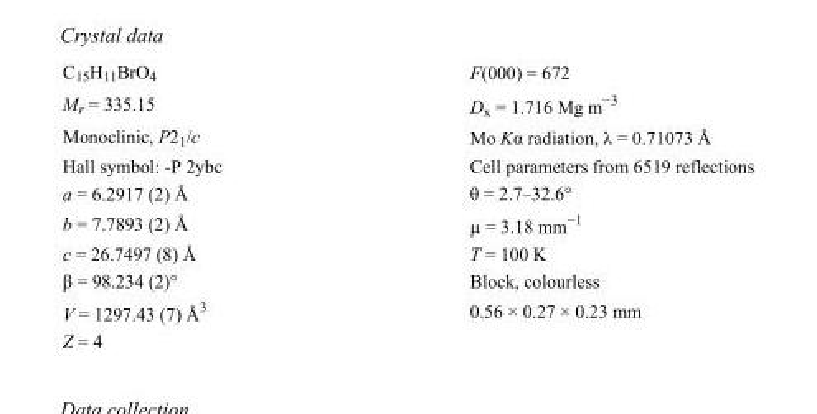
<table><tbody><tr><td>C<sub>15</sub>H<sub>11</sub>BrO<sub>4</sub></td><td>F(000) = 672</td></tr><tr><td>M<sub>r</sub> = 335.15</td><td>D<sub>x</sub> = 1.716 Mg m<sup>−3</sup></td></tr><tr><td>Monoclinic, P2<sub>1</sub>/c</td><td>Mo Kα radiation, λ = 0.71073 Å</td></tr><tr><td>Hall symbol: -P 2ybc</td><td>Cell parameters from 6519 reflections</td></tr><tr><td>a = 6.2917 (2) Å</td><td>θ = 2.7–32.6°</td></tr><tr><td>b = 7.7893 (2) Å</td><td>µ = 3.18 mm<sup>−1</sup></td></tr><tr><td>c = 26.7497 (8) Å</td><td>T = 100 K</td></tr><tr><td>β = 98.234 (2)°</td><td>Block, colourless</td></tr><tr><td>V = 1297.43 (7) Å<sup>3</sup></td><td>0.56 × 0.27 × 0.23 mm</td></tr><tr><td>Z = 4</td><td></td></tr></tbody></table>